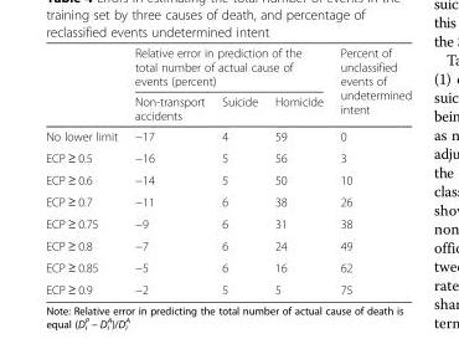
<table><thead><tr><td rowspan="2"></td><td colspan="3">Relative error in prediction of the total number of actual cause of events (percent)</td><td rowspan="2">Percent of unclassified events of undetermined intent</td></tr><tr><td>Non-transport accidents</td><td>Suicide</td><td>Homicide</td></tr></thead><tbody><tr><td>No lower limit</td><td>−17</td><td>4</td><td>59</td><td>0</td></tr><tr><td>ECP ≥ 0.5</td><td>−16</td><td>5</td><td>56</td><td>3</td></tr><tr><td>ECP ≥ 0.6</td><td>−14</td><td>5</td><td>50</td><td>10</td></tr><tr><td>ECP ≥ 0.7</td><td>−11</td><td>6</td><td>38</td><td>26</td></tr><tr><td>ECP ≥ 0.75</td><td>−9</td><td>6</td><td>31</td><td>38</td></tr><tr><td>ECP ≥ 0.8</td><td>−7</td><td>6</td><td>24</td><td>49</td></tr><tr><td>ECP ≥ 0.85</td><td>−5</td><td>6</td><td>16</td><td>62</td></tr><tr><td>ECP ≥ 0.9</td><td>−2</td><td>5</td><td>5</td><td>75</td></tr></tbody></table>